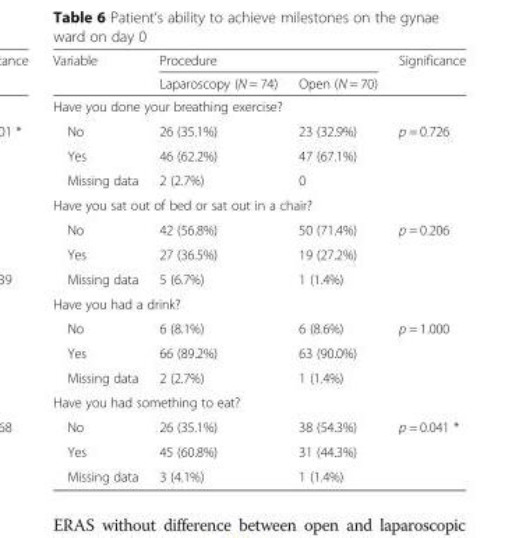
<table><thead><tr><td rowspan="2">Variable</td><td colspan="2">Procedure</td><td rowspan="2">Significance</td></tr><tr><td>Laparoscopy (N = 74)</td><td>Open (N = 70)</td></tr></thead><tbody><tr><td colspan="4">Have you done your breathing exercise?</td></tr><tr><td>No</td><td>26 (35.1%)</td><td>23 (32.9%)</td><td rowspan="3">p = 0.726</td></tr><tr><td>Yes</td><td>46 (62.2%)</td><td>47 (67.1%)</td></tr><tr><td>Missing data</td><td>2 (2.7%)</td><td>0</td></tr><tr><td colspan="4">Have you sat out of bed or sat out in a chair?</td></tr><tr><td>No</td><td>42 (56.8%)</td><td>50 (71.4%)</td><td rowspan="3">p = 0.206</td></tr><tr><td>Yes</td><td>27 (36.5%)</td><td>19 (27.2%)</td></tr><tr><td>Missing data</td><td>5 (6.7%)</td><td>1 (1.4%)</td></tr><tr><td colspan="4">Have you had a drink?</td></tr><tr><td>No</td><td>6 (8.1%)</td><td>6 (8.6%)</td><td rowspan="3">p = 1.000</td></tr><tr><td>Yes</td><td>66 (89.2%)</td><td>63 (90.0%)</td></tr><tr><td>Missing data</td><td>2 (2.7%)</td><td>1 (1.4%)</td></tr><tr><td colspan="4">Have you had something to eat?</td></tr><tr><td>No</td><td>26 (35.1%)</td><td>38 (54.3%)</td><td rowspan="3">p = 0.041 *</td></tr><tr><td>Yes</td><td>45 (60.8%)</td><td>31 (44.3%)</td></tr><tr><td>Missing data</td><td>3 (4.1%)</td><td>1 (1.4%)</td></tr></tbody></table>